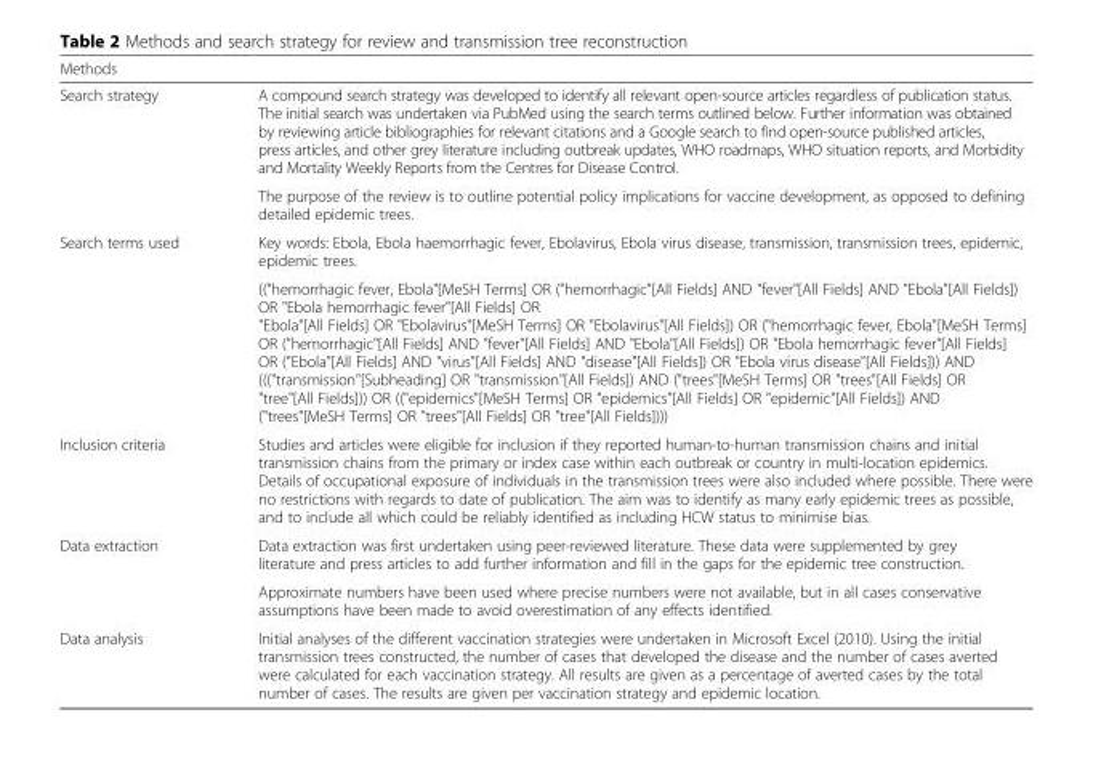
<table><thead><tr><td>Methods</td><td></td></tr></thead><tbody><tr><td rowspan="2">Search strategy</td><td>A compound search strategy was developed to identify all relevant open-source articles regardless of publication status. The initial search was undertaken via PubMed using the search terms outlined below. Further information was obtained by reviewing article bibliographies for relevant citations and a Google search to find open-source published articles, press articles, and other grey literature including outbreak updates, WHO roadmaps, WHO situation reports, and Morbidity and Mortality Weekly Reports from the Centres for Disease Control.</td></tr><tr><td>The purpose of the review is to outline potential policy implications for vaccine development, as opposed to defining detailed epidemic trees.</td></tr><tr><td rowspan="2">Search terms used</td><td>Key words: Ebola, Ebola haemorrhagic fever, Ebolavirus, Ebola virus disease, transmission, transmission trees, epidemic, epidemic trees.</td></tr><tr><td>((&quot;hemorrhagic fever, Ebola&quot;[MeSH Terms] OR (&quot;hemorrhagic&quot;[All Fields] AND &quot;fever&quot;[All Fields] AND &quot;Ebola&quot;[All Fields]) OR &quot;Ebola hemorrhagic fever&quot;[All Fields] OR &quot;Ebola&quot;[All Fields] OR &quot;Ebolavirus&quot;[MeSH Terms] OR &quot;Ebolavirus&quot;[All Fields]) OR (&quot;hemorrhagic fever, Ebola&quot;[MeSH Terms] OR (&quot;hemorrhagic&quot;[All Fields] AND &quot;fever&quot;[All Fields] AND &quot;Ebola&quot;[All Fields]) OR &quot;Ebola hemorrhagic fever&quot;[All Fields] OR (&quot;Ebola&quot;[All Fields] AND &quot;virus&quot;[All Fields] AND &quot;disease&quot;[All Fields]) OR &quot;Ebola virus disease&quot;[All Fields])) AND (((&quot;transmission&quot;[Subheading] OR &quot;transmission&quot;[All Fields]) AND (&quot;trees&quot;[MeSH Terms] OR &quot;trees&quot;[All Fields] OR &quot;tree&quot;[All Fields])) OR ((&quot;epidemics&quot;[MeSH Terms] OR &quot;epidemics&quot;[All Fields] OR &quot;epidemic&quot;[All Fields]) AND (&quot;trees&quot;[MeSH Terms] OR &quot;trees&quot;[All Fields] OR &quot;tree&quot;[All Fields])))</td></tr><tr><td>Inclusion criteria</td><td>Studies and articles were eligible for inclusion if they reported human-to-human transmission chains and initial transmission chains from the primary or index case within each outbreak or country in multi-location epidemics. Details of occupational exposure of individuals in the transmission trees were also included where possible. There were no restrictions with regards to date of publication. The aim was to identify as many early epidemic trees as possible, and to include all which could be reliably identified as including HCW status to minimise bias.</td></tr><tr><td rowspan="2">Data extraction</td><td>Data extraction was first undertaken using peer-reviewed literature. These data were supplemented by grey literature and press articles to add further information and fill in the gaps for the epidemic tree construction.</td></tr><tr><td>Approximate numbers have been used where precise numbers were not available, but in all cases conservative assumptions have been made to avoid overestimation of any effects identified.</td></tr><tr><td>Data analysis</td><td>Initial analyses of the different vaccination strategies were undertaken in Microsoft Excel (2010). Using the initial transmission trees constructed, the number of cases that developed the disease and the number of cases averted were calculated for each vaccination strategy. All results are given as a percentage of averted cases by the total number of cases. The results are given per vaccination strategy and epidemic location.</td></tr></tbody></table>